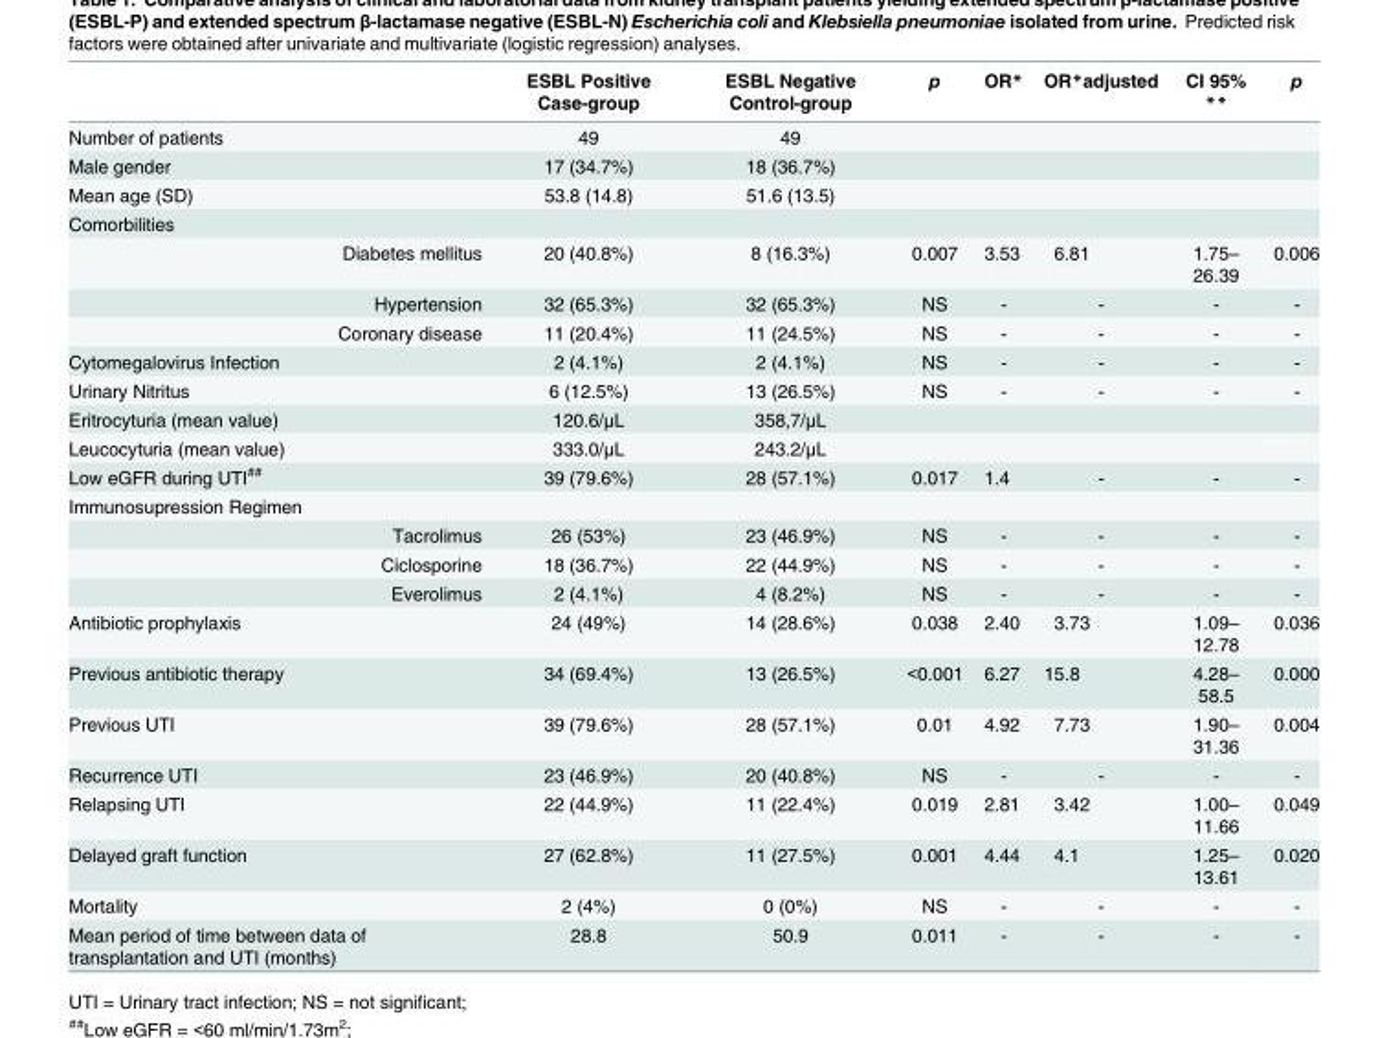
<table><thead><tr><td></td><td>ESBL Positive Case-group</td><td>ESBL Negative Control-group</td><td>p</td><td>OR*</td><td>OR*adjusted</td><td>CI 95% **</td><td>p</td></tr></thead><tbody><tr><td>Number of patients</td><td>49</td><td>49</td><td></td><td></td><td></td><td></td><td></td></tr><tr><td>Male gender</td><td>17 (34.7%)</td><td>18 (36.7%)</td><td></td><td></td><td></td><td></td><td></td></tr><tr><td>Mean age (SD)</td><td>53.8 (14.8)</td><td>51.6 (13.5)</td><td></td><td></td><td></td><td></td><td></td></tr><tr><td colspan="8">Comorbilities</td></tr><tr><td>Diabetes mellitus</td><td>20 (40.8%)</td><td>8 (16.3%)</td><td>0.007</td><td>3.53</td><td>6.81</td><td>1.75– 26.39</td><td>0.006</td></tr><tr><td>Hypertension</td><td>32 (65.3%)</td><td>32 (65.3%)</td><td>NS</td><td>-</td><td>-</td><td>-</td><td>-</td></tr><tr><td>Coronary disease</td><td>11 (20.4%)</td><td>11 (24.5%)</td><td>NS</td><td>-</td><td>-</td><td>-</td><td>-</td></tr><tr><td>Cytomegalovirus Infection</td><td>2 (4.1%)</td><td>2 (4.1%)</td><td>NS</td><td>-</td><td>-</td><td>-</td><td>-</td></tr><tr><td>Urinary Nitritus</td><td>6 (12.5%)</td><td>13 (26.5%)</td><td>NS</td><td>-</td><td>-</td><td>-</td><td>-</td></tr><tr><td>Eritrocyturia (mean value)</td><td>120.6/μL</td><td>358,7/μL</td><td></td><td></td><td></td><td></td><td></td></tr><tr><td>Leucocyturia (mean value)</td><td>333.0/μL</td><td>243.2/μL</td><td></td><td></td><td></td><td></td><td></td></tr><tr><td>Low eGFR during UTI<sup>##</sup></td><td>39 (79.6%)</td><td>28 (57.1%)</td><td>0.017</td><td>1.4</td><td>-</td><td>-</td><td>-</td></tr><tr><td colspan="8">Immunosupression Regimen</td></tr><tr><td>Tacrolimus</td><td>26 (53%)</td><td>23 (46.9%)</td><td>NS</td><td>-</td><td>-</td><td>-</td><td>-</td></tr><tr><td>Ciclosporine</td><td>18 (36.7%)</td><td>22 (44.9%)</td><td>NS</td><td>-</td><td>-</td><td>-</td><td>-</td></tr><tr><td>Everolimus</td><td>2 (4.1%)</td><td>4 (8.2%)</td><td>NS</td><td>-</td><td>-</td><td>-</td><td>-</td></tr><tr><td>Antibiotic prophylaxis</td><td>24 (49%)</td><td>14 (28.6%)</td><td>0.038</td><td>2.40</td><td>3.73</td><td>1.09– 12.78</td><td>0.036</td></tr><tr><td>Previous antibiotic therapy</td><td>34 (69.4%)</td><td>13 (26.5%)</td><td>&lt;0.001</td><td>6.27</td><td>15.8</td><td>4.28– 58.5</td><td>0.000</td></tr><tr><td>Previous UTI</td><td>39 (79.6%)</td><td>28 (57.1%)</td><td>0.01</td><td>4.92</td><td>7.73</td><td>1.90– 31.36</td><td>0.004</td></tr><tr><td>Recurrence UTI</td><td>23 (46.9%)</td><td>20 (40.8%)</td><td>NS</td><td>-</td><td>-</td><td>-</td><td>-</td></tr><tr><td>Relapsing UTI</td><td>22 (44.9%)</td><td>11 (22.4%)</td><td>0.019</td><td>2.81</td><td>3.42</td><td>1.00– 11.66</td><td>0.049</td></tr><tr><td>Delayed graft function</td><td>27 (62.8%)</td><td>11 (27.5%)</td><td>0.001</td><td>4.44</td><td>4.1</td><td>1.25– 13.61</td><td>0.020</td></tr><tr><td>Mortality</td><td>2 (4%)</td><td>0 (0%)</td><td>NS</td><td>-</td><td>-</td><td>-</td><td>-</td></tr><tr><td>Mean period of time between data of transplantation and UTI (months)</td><td>28.8</td><td>50.9</td><td>0.011</td><td>-</td><td>-</td><td>-</td><td>-</td></tr></tbody></table>